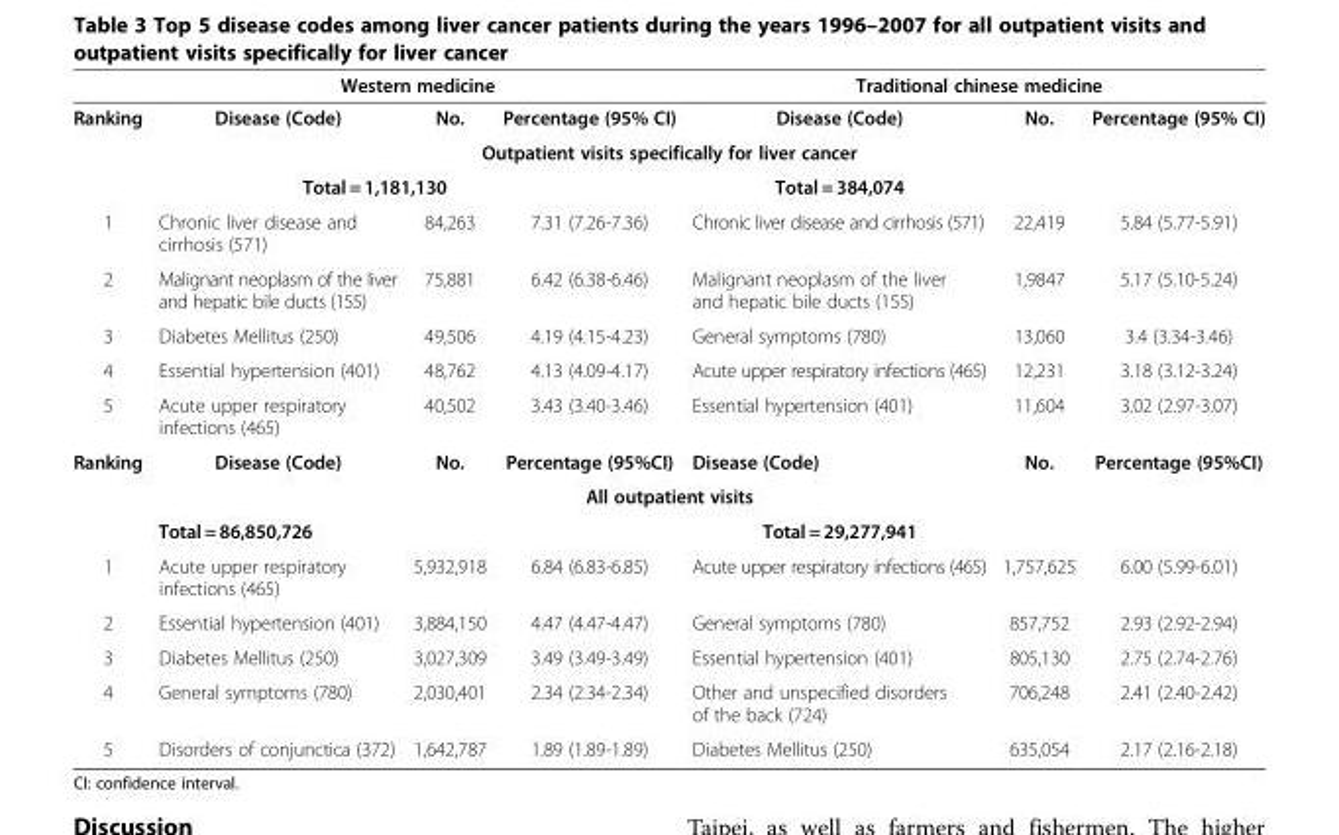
<table><thead><tr><td rowspan="2">Ranking</td><td colspan="3">Western medicine</td><td colspan="3">Traditional chinese medicine</td></tr><tr><td>Disease (Code)</td><td>No.</td><td>Percentage (95% CI)</td><td>Disease (Code)</td><td>No.</td><td>Percentage (95% CI)</td></tr></thead><tbody><tr><td colspan="7">Outpatient visits specifically for liver cancer</td></tr><tr><td colspan="4">Total = 1,181,130</td><td>Total = 384,074</td><td></td><td></td></tr><tr><td>1</td><td>Chronic liver disease and cirrhosis (571)</td><td>84,263</td><td>7.31 (7.26-7.36)</td><td>Chronic liver disease and cirrhosis (571)</td><td>22,419</td><td>5.84 (5.77-5.91)</td></tr><tr><td>2</td><td>Malignant neoplasm of the liver and hepatic bile ducts (155)</td><td>75,881</td><td>6.42 (6.38-6.46)</td><td>Malignant neoplasm of the liver and hepatic bile ducts (155)</td><td>1,9847</td><td>5.17 (5.10-5.24)</td></tr><tr><td>3</td><td>Diabetes Mellitus (250)</td><td>49,506</td><td>4.19 (4.15-4.23)</td><td>General symptoms (780)</td><td>13,060</td><td>3.4 (3.34-3.46)</td></tr><tr><td>4</td><td>Essential hypertension (401)</td><td>48,762</td><td>4.13 (4.09-4.17)</td><td>Acute upper respiratory infections (465)</td><td>12,231</td><td>3.18 (3.12-3.24)</td></tr><tr><td>5</td><td>Acute upper respiratory infections (465)</td><td>40,502</td><td>3.43 (3.40-3.46)</td><td>Essential hypertension (401)</td><td>11,604</td><td>3.02 (2.97-3.07)</td></tr><tr><td>Ranking</td><td>Disease (Code)</td><td>No.</td><td>Percentage (95%CI)</td><td>Disease (Code)</td><td>No.</td><td>Percentage (95%CI)</td></tr><tr><td colspan="7">All outpatient visits</td></tr><tr><td colspan="2">Total = 86,850,726</td><td></td><td></td><td>Total = 29,277,941</td><td></td><td></td></tr><tr><td>1</td><td>Acute upper respiratory infections (465)</td><td>5,932,918</td><td>6.84 (6.83-6.85)</td><td>Acute upper respiratory infections (465)</td><td>1,757,625</td><td>6.00 (5.99-6.01)</td></tr><tr><td>2</td><td>Essential hypertension (401)</td><td>3,884,150</td><td>4.47 (4.47-4.47)</td><td>General symptoms (780)</td><td>857,752</td><td>2.93 (2.92-2.94)</td></tr><tr><td>3</td><td>Diabetes Mellitus (250)</td><td>3,027,309</td><td>3.49 (3.49-3.49)</td><td>Essential hypertension (401)</td><td>805,130</td><td>2.75 (2.74-2.76)</td></tr><tr><td>4</td><td>General symptoms (780)</td><td>2,030,401</td><td>2.34 (2.34-2.34)</td><td>Other and unspecified disorders of the back (724)</td><td>706,248</td><td>2.41 (2.40-2.42)</td></tr><tr><td>5</td><td>Disorders of conjunctica (372)</td><td>1,642,787</td><td>1.89 (1.89-1.89)</td><td>Diabetes Mellitus (250)</td><td>635,054</td><td>2.17 (2.16-2.18)</td></tr></tbody></table>